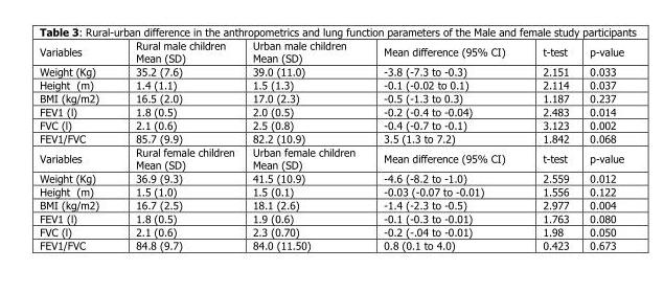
<table><thead><tr><td>Variables</td><td>Rural male children Mean (SD)</td><td>Urban male children Mean (SD)</td><td>Mean difference (95% CI)</td><td>t-test</td><td>p-value</td></tr></thead><tbody><tr><td>Weight (Kg)</td><td>35.2 (7.6)</td><td>39.0 (11.0)</td><td>-3.8 (-7.3 to -0.3)</td><td>2.151</td><td>0.033</td></tr><tr><td>Height (m)</td><td>1.4 (1.1)</td><td>1.5 (1.3)</td><td>-0.1 (-0.02 to 0.1)</td><td>2.114</td><td>0.037</td></tr><tr><td>BMI (kg/m2)</td><td>16.5 (2.0)</td><td>17.0 (2.3)</td><td>-0.5 (-1.3 to 0.3)</td><td>1.187</td><td>0.237</td></tr><tr><td>FEV1 (l)</td><td>1.8 (0.5)</td><td>2.0 (0.5)</td><td>-0.2 (-0.4 to -0.04)</td><td>2.483</td><td>0.014</td></tr><tr><td>FVC (l)</td><td>2.1 (0.6)</td><td>2.5 (0.8)</td><td>-0.4 (-0.7 to -0.1)</td><td>3.123</td><td>0.002</td></tr><tr><td>FEV1/FVC</td><td>85.7 (9.9)</td><td>82.2 (10.9)</td><td>3.5 (1.3 to 7.2)</td><td>1.842</td><td>0.068</td></tr><tr><td>Variables</td><td>Rural female children Mean (SD)</td><td>Urban female children Mean (SD)</td><td>Mean difference (95% CI)</td><td>t-test</td><td>p-value</td></tr><tr><td>Weight (Kg)</td><td>36.9 (9.3)</td><td>41.5 (10.9)</td><td>-4.6 (-8.2 to -1.0)</td><td>2.559</td><td>0.012</td></tr><tr><td>Height (m)</td><td>1.5 (1.0)</td><td>1.5 (0.1)</td><td>-0.03 (-0.07 to -0.01)</td><td>1.556</td><td>0.122</td></tr><tr><td>BMI (kg/m2)</td><td>16.7 (2.5)</td><td>18.1 (2.6)</td><td>-1.4 (-2.3 to -0.5)</td><td>2.977</td><td>0.004</td></tr><tr><td>FEV1 (l)</td><td>1.8 (0.5)</td><td>1.9 (0.6)</td><td>-0.1 (-0.3 to -0.01)</td><td>1.763</td><td>0.080</td></tr><tr><td>FVC (l)</td><td>2.1 (0.6)</td><td>2.3 (0.70)</td><td>-0.2 (-.04 to -0.01)</td><td>1.98</td><td>0.050</td></tr><tr><td>FEV1/FVC</td><td>84.8 (9.7)</td><td>84.0 (11.50)</td><td>0.8 (0.1 to 4.0)</td><td>0.423</td><td>0.673</td></tr></tbody></table>